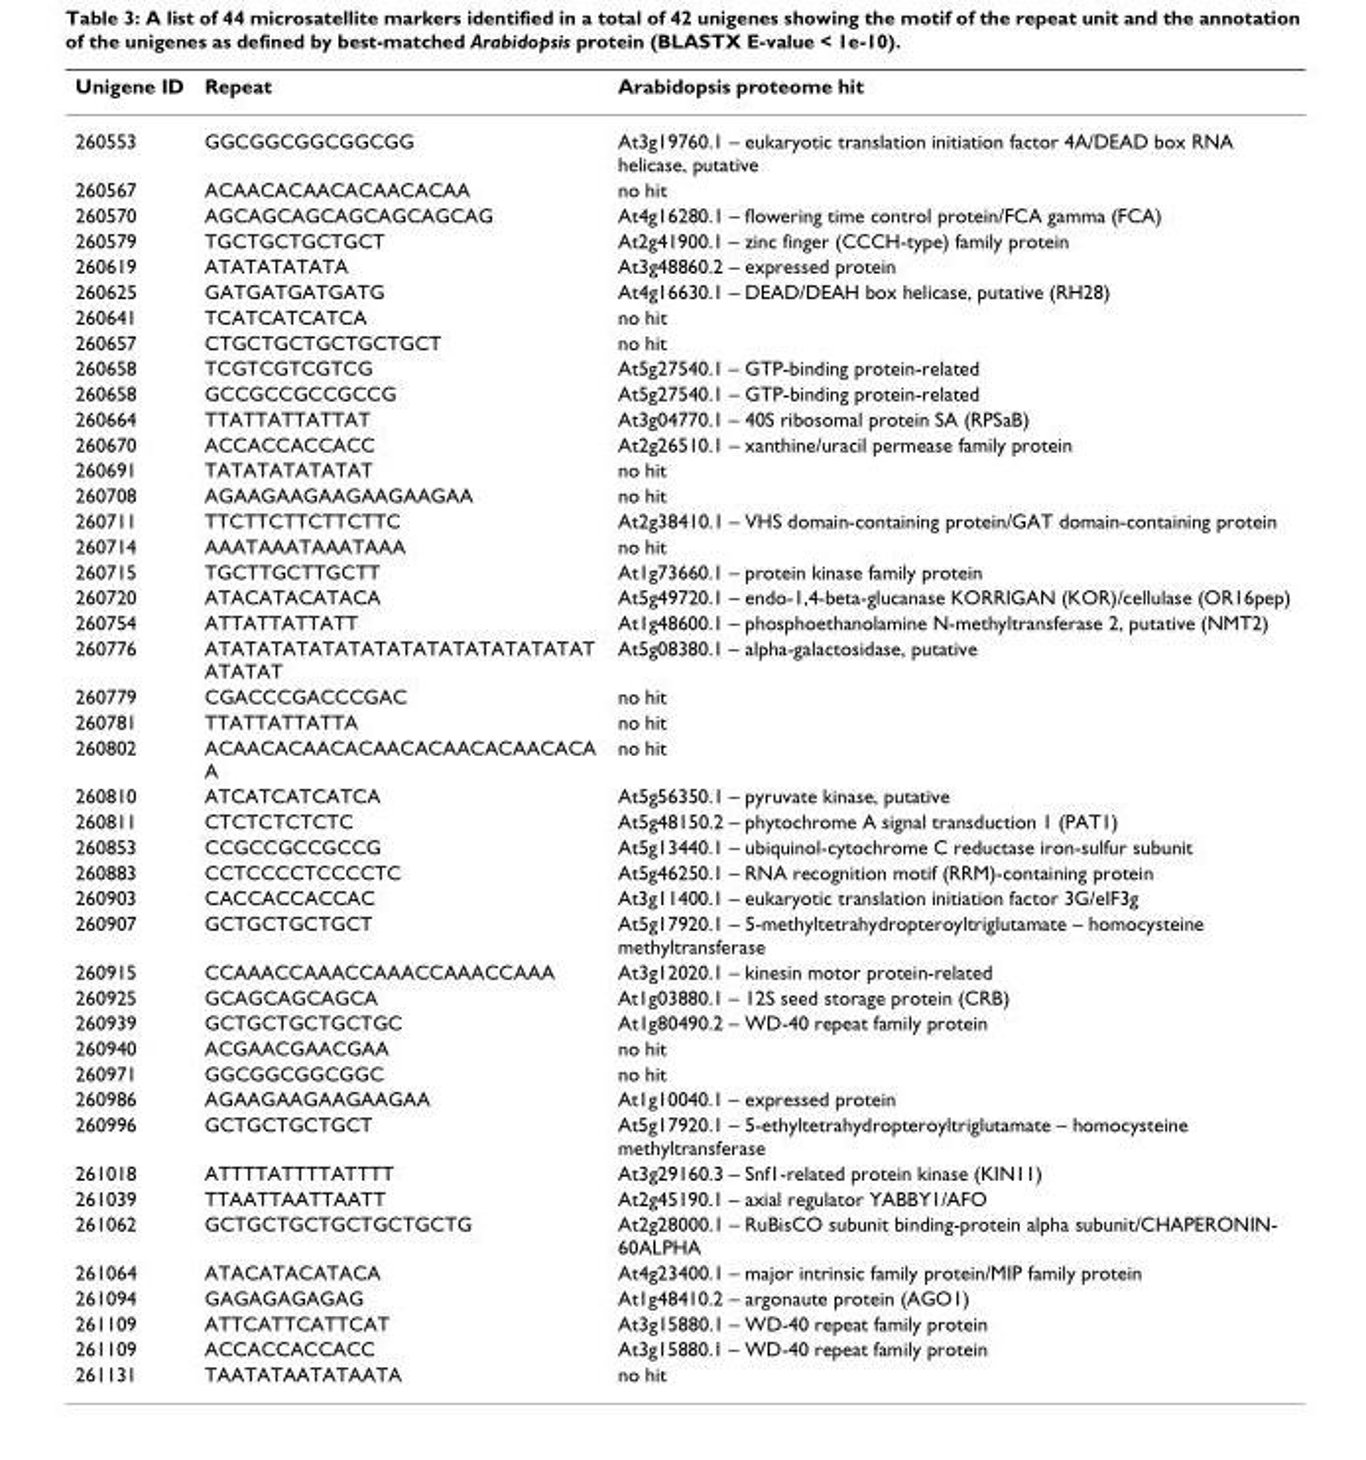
<table><thead><tr><td>Unigene ID</td><td>Repeat</td><td>Arabidopsis proteome hit</td></tr></thead><tbody><tr><td>260553</td><td>GGCGGCGGCGGCGG</td><td>At3g19760.1 – eukaryotic translation initiation factor 4A/DEAD box RNA helicase, putative</td></tr><tr><td>260567</td><td>ACAACACAACACAACACAA</td><td>no hit</td></tr><tr><td>260570</td><td>AGCAGCAGCAGCAGCAGCAG</td><td>At4g16280.1 – flowering time control protein/FCA gamma (FCA)</td></tr><tr><td>260579</td><td>TGCTGCTGCTGCT</td><td>At2g41900.1 – zinc finger (CCCH-type) family protein</td></tr><tr><td>260619</td><td>ATATATATATA</td><td>At3g48860.2 – expressed protein</td></tr><tr><td>260625</td><td>GATGATGATGATG</td><td>At4g16630.1 – DEAD/DEAH box helicase, putative (RH28)</td></tr><tr><td>260641</td><td>TCATCATCATCA</td><td>no hit</td></tr><tr><td>260657</td><td>CTGCTGCTGCTGCTGCT</td><td>no hit</td></tr><tr><td>260658</td><td>TCGTCGTCGTCG</td><td>At5g27540.1 – GTP-binding protein-related</td></tr><tr><td>260658</td><td>GCCGCCGCCGCCG</td><td>At5g27540.1 – GTP-binding protein-related</td></tr><tr><td>260664</td><td>TTATTATTATTAT</td><td>At3g04770.1 – 40S ribosomal protein SA (RPSaB)</td></tr><tr><td>260670</td><td>ACCACCACCACC</td><td>At2g26510.1 – xanthine/uracil permease family protein</td></tr><tr><td>260691</td><td>TATATATATATAT</td><td>no hit</td></tr><tr><td>260708</td><td>AGAAGAAGAAGAAGAAGAA</td><td>no hit</td></tr><tr><td>260711</td><td>TTCTTCTTCTTCTTC</td><td>At2g38410.1 – VHS domain-containing protein/GAT domain-containing protein</td></tr><tr><td>260714</td><td>AAATAAATAAATAAA</td><td>no hit</td></tr><tr><td>260715</td><td>TGCTTGCTTGCTT</td><td>At1g73660.1 – protein kinase family protein</td></tr><tr><td>260720</td><td>ATACATACATACA</td><td>At5g49720.1 – endo-1,4-beta-glucanase KORRIGAN (KOR)/cellulase (OR16pep)</td></tr><tr><td>260754</td><td>ATTATTATTATT</td><td>At1g48600.1 – phosphoethanolamine N-methyltransferase 2, putative (NMT2)</td></tr><tr><td>260776</td><td>ATATATATATATATATATATATATATATAT ATATAT</td><td>At5g08380.1 – alpha-galactosidase, putative</td></tr><tr><td>260779</td><td>CGACCCGACCCGAC</td><td>no hit</td></tr><tr><td>260781</td><td>TTATTATTATTA</td><td>no hit</td></tr><tr><td>260802</td><td>ACAACACAACACAACACAACACAACACA A</td><td>no hit</td></tr><tr><td>260810</td><td>ATCATCATCATCA</td><td>At5g56350.1 – pyruvate kinase, putative</td></tr><tr><td>260811</td><td>CTCTCTCTCTC</td><td>At5g48150.2 – phytochrome A signal transduction 1 (PAT1)</td></tr><tr><td>260853</td><td>CCGCCGCCGCCG</td><td>At5g13440.1 – ubiquinol-cytochrome C reductase iron-sulfur subunit</td></tr><tr><td>260883</td><td>CCTCCCCTCCCCTC</td><td>At5g46250.1 – RNA recognition motif (RRM)-containing protein</td></tr><tr><td>260903</td><td>CACCACCACCAC</td><td>At3g11400.1 – eukaryotic translation initiation factor 3G/eIF3g</td></tr><tr><td>260907</td><td>GCTGCTGCTGCT</td><td>At5g17920.1 – 5-methyltetrahydropteroyltriglutamate – homocysteine methyltransferase</td></tr><tr><td>260915</td><td>CCAAACCAAACCAAACCAAACCAAA</td><td>At3g12020.1 – kinesin motor protein-related</td></tr><tr><td>260925</td><td>GCAGCAGCAGCA</td><td>At1g03880.1 – 12S seed storage protein (CRB)</td></tr><tr><td>260939</td><td>GCTGCTGCTGCTGC</td><td>At1g80490.2 – WD-40 repeat family protein</td></tr><tr><td>260940</td><td>ACGAACGAACGAA</td><td>no hit</td></tr><tr><td>260971</td><td>GGCGGCGGCGGC</td><td>no hit</td></tr><tr><td>260986</td><td>AGAAGAAGAAGAAGAA</td><td>At1g10040.1 – expressed protein</td></tr><tr><td>260996</td><td>GCTGCTGCTGCT</td><td>At5g17920.1 – 5-ethyltetrahydropteroyltriglutamate – homocysteine methyltransferase</td></tr><tr><td>261018</td><td>ATTTTATTTTATTTT</td><td>At3g29160.3 – Snf1-related protein kinase (KIN11)</td></tr><tr><td>261039</td><td>TTAATTAATTAATT</td><td>At2g45190.1 – axial regulator YABBY1/AFO</td></tr><tr><td>261062</td><td>GCTGCTGCTGCTGCTGCTG</td><td>At2g28000.1 – RuBisCO subunit binding-protein alpha subunit/CHAPERONIN- 60ALPHA</td></tr><tr><td>261064</td><td>ATACATACATACA</td><td>At4g23400.1 – major intrinsic family protein/MIP family protein</td></tr><tr><td>261094</td><td>GAGAGAGAGAG</td><td>At1g48410.2 – argonaute protein (AGO1)</td></tr><tr><td>261109</td><td>ATTCATTCATTCAT</td><td>At3g15880.1 – WD-40 repeat family protein</td></tr><tr><td>261109</td><td>ACCACCACCACC</td><td>At3g15880.1 – WD-40 repeat family protein</td></tr><tr><td>261131</td><td>TAATATAATATAATA</td><td>no hit</td></tr></tbody></table>